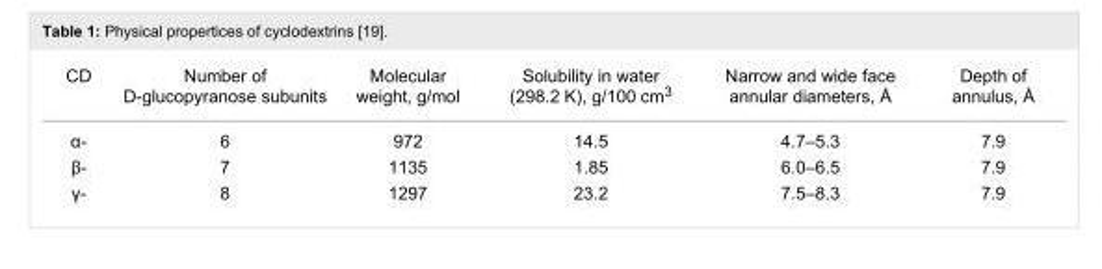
<table><tbody><tr><td>CD</td><td>Number of D-glucopyranose subunits</td><td>Molecular weight, g/mol</td><td>Solubility in water (298.2 K), g/100 cm<sup>3</sup></td><td>Narrow and wide face annular diameters, Å</td><td>Depth of annulus, Å</td></tr><tr><td>α-</td><td>6</td><td>972</td><td>14.5</td><td>4.7–5.3</td><td>7.9</td></tr><tr><td>β-</td><td>7</td><td>1135</td><td>1.85</td><td>6.0–6.5</td><td>7.9</td></tr><tr><td>γ-</td><td>8</td><td>1297</td><td>23.2</td><td>7.5–8.3</td><td>7.9</td></tr></tbody></table>